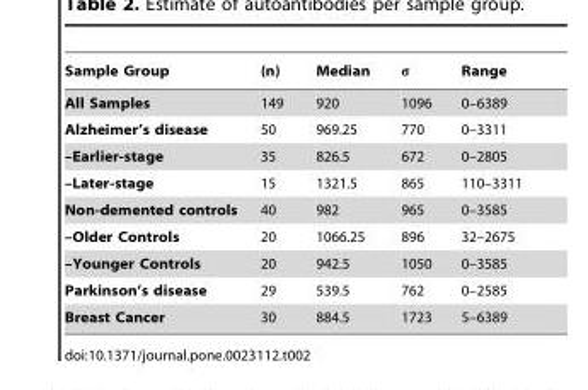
<table><thead><tr><td>Sample Group</td><td>(n)</td><td>Median</td><td>σ</td><td>Range</td></tr></thead><tbody><tr><td>All Samples</td><td>149</td><td>920</td><td>1096</td><td>0–6389</td></tr><tr><td>Alzheimer’s disease</td><td>50</td><td>969.25</td><td>770</td><td>0–3311</td></tr><tr><td>–Earlier-stage</td><td>35</td><td>826.5</td><td>672</td><td>0–2805</td></tr><tr><td>–Later-stage</td><td>15</td><td>1321.5</td><td>865</td><td>110–3311</td></tr><tr><td>Non-demented controls</td><td>40</td><td>982</td><td>965</td><td>0–3585</td></tr><tr><td>–Older Controls</td><td>20</td><td>1066.25</td><td>896</td><td>32–2675</td></tr><tr><td>–Younger Controls</td><td>20</td><td>942.5</td><td>1050</td><td>0–3585</td></tr><tr><td>Parkinson’s disease</td><td>29</td><td>539.5</td><td>762</td><td>0–2585</td></tr><tr><td>Breast Cancer</td><td>30</td><td>884.5</td><td>1723</td><td>5–6389</td></tr></tbody></table>